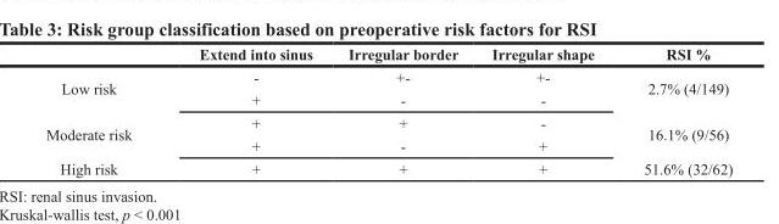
<table><thead><tr><td></td><td>Extend into sinus</td><td>Irregular border</td><td>Irregular shape</td><td>RSI %</td></tr></thead><tbody><tr><td rowspan="2">Low risk</td><td>-</td><td>+-</td><td>+-</td><td rowspan="2">2.7% (4/149)</td></tr><tr><td>+</td><td>-</td><td>-</td></tr><tr><td rowspan="2">Moderate risk</td><td>+</td><td>+</td><td>-</td><td rowspan="2">16.1% (9/56)</td></tr><tr><td>+</td><td>-</td><td>+</td></tr><tr><td>High risk</td><td>+</td><td>+</td><td>+</td><td>51.6% (32/62)</td></tr></tbody></table>